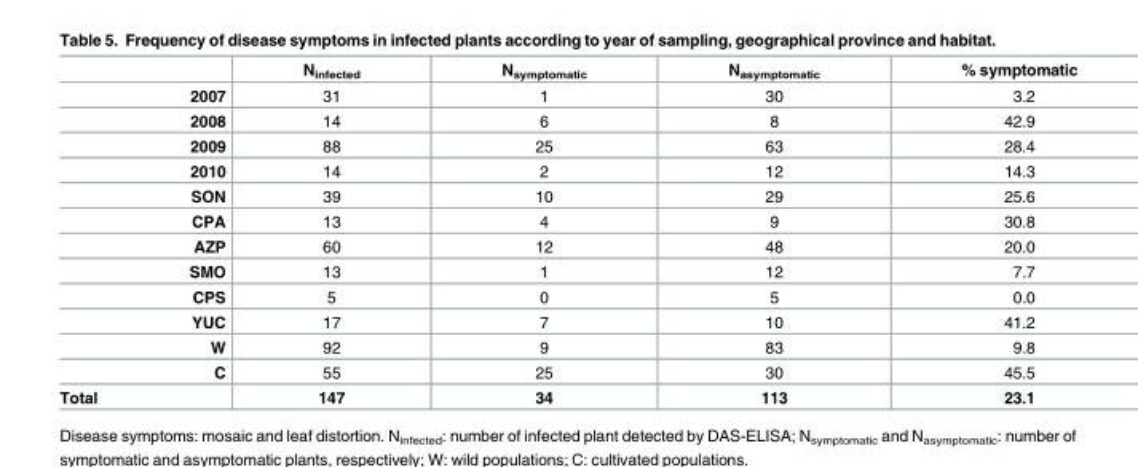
<table><thead><tr><td></td><td>N<sub>infected</sub></td><td>N<sub>symptomatic</sub></td><td>N<sub>asymptomatic</sub></td><td>% symptomatic</td></tr></thead><tbody><tr><td>2007</td><td>31</td><td>1</td><td>30</td><td>3.2</td></tr><tr><td>2008</td><td>14</td><td>6</td><td>8</td><td>42.9</td></tr><tr><td>2009</td><td>88</td><td>25</td><td>63</td><td>28.4</td></tr><tr><td>2010</td><td>14</td><td>2</td><td>12</td><td>14.3</td></tr><tr><td>SON</td><td>39</td><td>10</td><td>29</td><td>25.6</td></tr><tr><td>CPA</td><td>13</td><td>4</td><td>9</td><td>30.8</td></tr><tr><td>AZP</td><td>60</td><td>12</td><td>48</td><td>20.0</td></tr><tr><td>SMO</td><td>13</td><td>1</td><td>12</td><td>7.7</td></tr><tr><td>CPS</td><td>5</td><td>0</td><td>5</td><td>0.0</td></tr><tr><td>YUC</td><td>17</td><td>7</td><td>10</td><td>41.2</td></tr><tr><td>W</td><td>92</td><td>9</td><td>83</td><td>9.8</td></tr><tr><td>C</td><td>55</td><td>25</td><td>30</td><td>45.5</td></tr><tr><td>Total</td><td>147</td><td>34</td><td>113</td><td>23.1</td></tr></tbody></table>